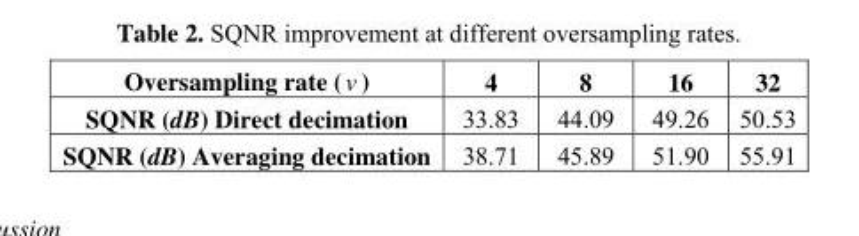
<table><thead><tr><td>Oversampling rate (v )</td><td>4</td><td>8</td><td>16</td><td>32</td></tr></thead><tbody><tr><td>SQNR (dB) Direct decimation</td><td>33.83</td><td>44.09</td><td>49.26</td><td>50.53</td></tr><tr><td>SQNR (dB) Averaging decimation</td><td>38.71</td><td>45.89</td><td>51.90</td><td>55.91</td></tr></tbody></table>